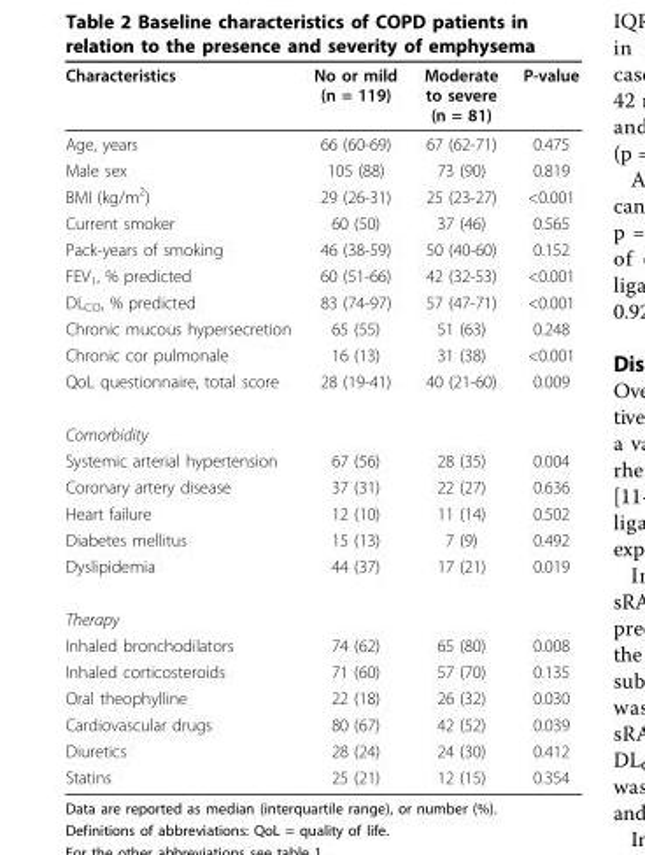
<table><thead><tr><td>Characteristics</td><td>No or mild (n = 119)</td><td>Moderate to severe (n = 81)</td><td>P-value</td></tr></thead><tbody><tr><td>Age, years</td><td>66 (60-69)</td><td>67 (62-71)</td><td>0.475</td></tr><tr><td>Male sex</td><td>105 (88)</td><td>73 (90)</td><td>0.819</td></tr><tr><td>BMI (kg/m<sup>2</sup>)</td><td>29 (26-31)</td><td>25 (23-27)</td><td>&lt;0.001</td></tr><tr><td>Current smoker</td><td>60 (50)</td><td>37 (46)</td><td>0.565</td></tr><tr><td>Pack-years of smoking</td><td>46 (38-59)</td><td>50 (40-60)</td><td>0.152</td></tr><tr><td>FEV<sub>1</sub>, % predicted</td><td>60 (51-66)</td><td>42 (32-53)</td><td>&lt;0.001</td></tr><tr><td>DL<sub>CO</sub>, % predicted</td><td>83 (74-97)</td><td>57 (47-71)</td><td>&lt;0.001</td></tr><tr><td>Chronic mucous hypersecretion</td><td>65 (55)</td><td>51 (63)</td><td>0.248</td></tr><tr><td>Chronic cor pulmonale</td><td>16 (13)</td><td>31 (38)</td><td>&lt;0.001</td></tr><tr><td>QoL questionnaire, total score</td><td>28 (19-41)</td><td>40 (21-60)</td><td>0.009</td></tr><tr><td colspan="4">Comorbidity</td></tr><tr><td>Systemic arterial hypertension</td><td>67 (56)</td><td>28 (35)</td><td>0.004</td></tr><tr><td>Coronary artery disease</td><td>37 (31)</td><td>22 (27)</td><td>0.636</td></tr><tr><td>Heart failure</td><td>12 (10)</td><td>11 (14)</td><td>0.502</td></tr><tr><td>Diabetes mellitus</td><td>15 (13)</td><td>7 (9)</td><td>0.492</td></tr><tr><td>Dyslipidemia</td><td>44 (37)</td><td>17 (21)</td><td>0.019</td></tr><tr><td colspan="4">Therapy</td></tr><tr><td>Inhaled bronchodilators</td><td>74 (62)</td><td>65 (80)</td><td>0.008</td></tr><tr><td>Inhaled corticosteroids</td><td>71 (60)</td><td>57 (70)</td><td>0.135</td></tr><tr><td>Oral theophylline</td><td>22 (18)</td><td>26 (32)</td><td>0.030</td></tr><tr><td>Cardiovascular drugs</td><td>80 (67)</td><td>42 (52)</td><td>0.039</td></tr><tr><td>Diuretics</td><td>28 (24)</td><td>24 (30)</td><td>0.412</td></tr><tr><td>Statins</td><td>25 (21)</td><td>12 (15)</td><td>0.354</td></tr></tbody></table>